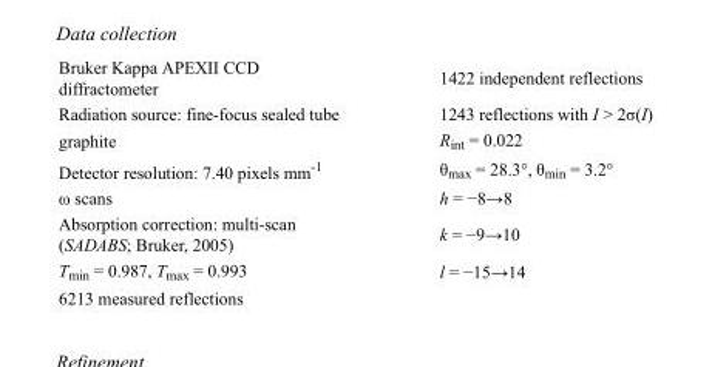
<table><tbody><tr><td>Bruker Kappa APEXII CCD diffractometer</td><td>1422 independent reflections</td></tr><tr><td>Radiation source: fine-focus sealed tube</td><td>1243 reflections with I &gt; 2σ(I)</td></tr><tr><td>graphite</td><td>R<sub>int</sub> = 0.022</td></tr><tr><td>Detector resolution: 7.40 pixels mm<sup>-1</sup></td><td>θ<sub>max</sub> = 28.3°, θ<sub>min</sub> = 3.2°</td></tr><tr><td>ω scans</td><td>h = −8→8</td></tr><tr><td>Absorption correction: multi-scan (SADABS; Bruker, 2005)</td><td>k = −9→10</td></tr><tr><td>T<sub>min</sub> = 0.987, T<sub>max</sub> = 0.993</td><td>l = −15→14</td></tr><tr><td>6213 measured reflections</td><td></td></tr></tbody></table>